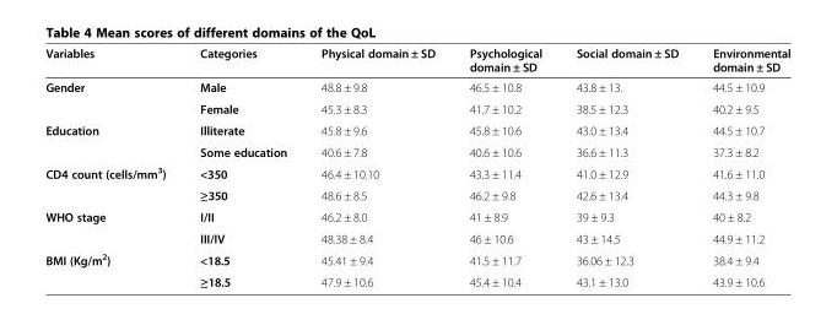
<table><thead><tr><td>Variables</td><td>Categories</td><td>Physical domain ± SD</td><td>Psychological domain ± SD</td><td>Social domain ± SD</td><td>Environmental domain ± SD</td></tr></thead><tbody><tr><td rowspan="2">Gender</td><td>Male</td><td>48.8 ± 9.8</td><td>46.5 ± 10.8</td><td>43.8 ± 13.</td><td>44.5 ± 10.9</td></tr><tr><td>Female</td><td>45.3 ± 8.3</td><td>41.7 ± 10.2</td><td>38.5 ± 12.3</td><td>40.2 ± 9.5</td></tr><tr><td rowspan="2">Education</td><td>Illiterate</td><td>45.8 ± 9.6</td><td>45.8 ± 10.6</td><td>43.0 ± 13.4</td><td>44.5 ± 10.7</td></tr><tr><td>Some education</td><td>40.6 ± 7.8</td><td>40.6 ± 10.6</td><td>36.6 ± 11.3</td><td>37.3 ± 8.2</td></tr><tr><td rowspan="2">CD4 count (cells/mm<sup>3</sup>)</td><td>&lt;350</td><td>46.4 ± 10.10</td><td>43.3 ± 11.4</td><td>41.0 ± 12.9</td><td>41.6 ± 11.0</td></tr><tr><td>≥350</td><td>48.6 ± 8.5</td><td>46.2 ± 9.8</td><td>42.6 ± 13.4</td><td>44.3 ± 9.8</td></tr><tr><td rowspan="2">WHO stage</td><td>I/II</td><td>46.2 ± 8.0</td><td>41 ± 8.9</td><td>39 ± 9.3</td><td>40 ± 8.2</td></tr><tr><td>III/IV</td><td>48.38 ± 8.4</td><td>46 ± 10.6</td><td>43 ± 14.5</td><td>44.9 ± 11.2</td></tr><tr><td rowspan="2">BMI (Kg/m<sup>2</sup>)</td><td>&lt;18.5</td><td>45.41 ± 9.4</td><td>41.5 ± 11.7</td><td>36.06 ± 12.3</td><td>38.4 ± 9.4</td></tr><tr><td>≥18.5</td><td>47.9 ± 10.6</td><td>45.4 ± 10.4</td><td>43.1 ± 13.0</td><td>43.9 ± 10.6</td></tr></tbody></table>